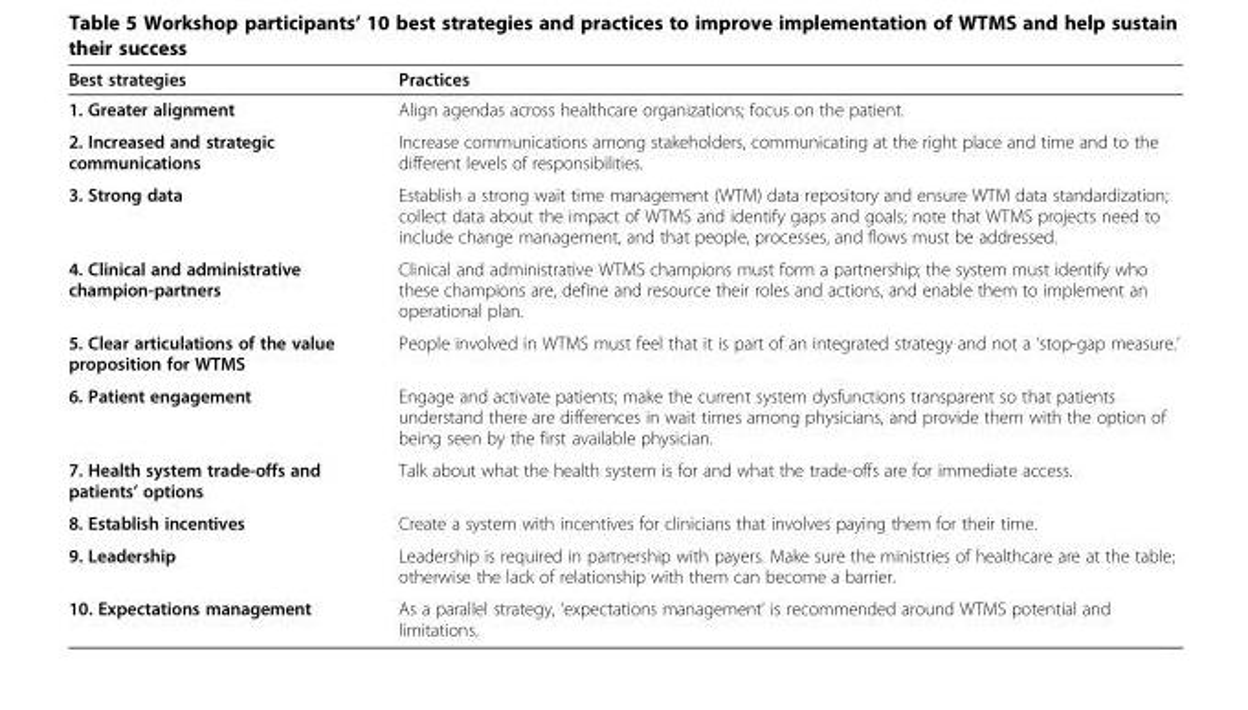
<table><thead><tr><td>Best strategies</td><td>Practices</td></tr></thead><tbody><tr><td>1. Greater alignment</td><td>Align agendas across healthcare organizations; focus on the patient.</td></tr><tr><td>2. Increased and strategic communications</td><td>Increase communications among stakeholders, communicating at the right place and time and to the different levels of responsibilities.</td></tr><tr><td>3. Strong data</td><td>Establish a strong wait time management (WTM) data repository and ensure WTM data standardization; collect data about the impact of WTMS and identify gaps and goals; note that WTMS projects need to include change management, and that people, processes, and flows must be addressed.</td></tr><tr><td>4. Clinical and administrative champion-partners</td><td>Clinical and administrative WTMS champions must form a partnership; the system must identify who these champions are, define and resource their roles and actions, and enable them to implement an operational plan.</td></tr><tr><td>5. Clear articulations of the value proposition for WTMS</td><td>People involved in WTMS must feel that it is part of an integrated strategy and not a ‘stop-gap measure.’</td></tr><tr><td>6. Patient engagement</td><td>Engage and activate patients; make the current system dysfunctions transparent so that patients understand there are differences in wait times among physicians, and provide them with the option of being seen by the first available physician.</td></tr><tr><td>7. Health system trade-offs and patients’ options</td><td>Talk about what the health system is for and what the trade-offs are for immediate access.</td></tr><tr><td>8. Establish incentives</td><td>Create a system with incentives for clinicians that involves paying them for their time.</td></tr><tr><td>9. Leadership</td><td>Leadership is required in partnership with payers. Make sure the ministries of healthcare are at the table; otherwise the lack of relationship with them can become a barrier.</td></tr><tr><td>10. Expectations management</td><td>As a parallel strategy, ‘expectations management’ is recommended around WTMS potential and limitations.</td></tr></tbody></table>